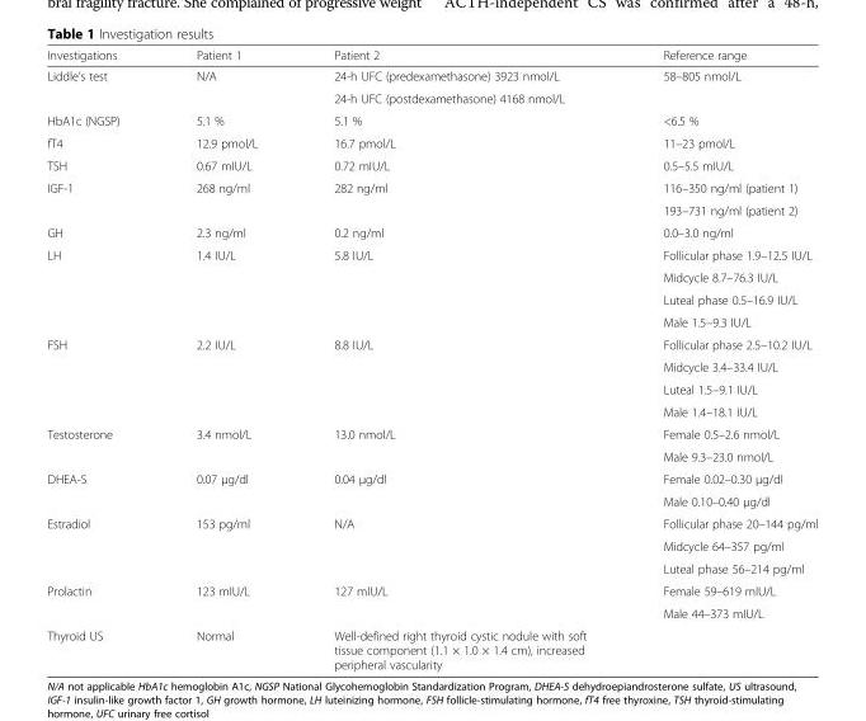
<table><thead><tr><td>Investigations</td><td>Patient 1</td><td>Patient 2</td><td>Reference range</td></tr></thead><tbody><tr><td rowspan="2">Liddle’s test</td><td rowspan="2">N/A</td><td>24-h UFC (predexamethasone) 3923 nmol/L</td><td rowspan="2">58–805 nmol/L</td></tr><tr><td>24-h UFC (postdexamethasone) 4168 nmol/L</td></tr><tr><td>HbA1c (NGSP)</td><td>5.1 %</td><td>5.1 %</td><td>&lt;6.5 %</td></tr><tr><td>fT4</td><td>12.9 pmol/L</td><td>16.7 pmol/L</td><td>11–23 pmol/L</td></tr><tr><td>TSH</td><td>0.67 mIU/L</td><td>0.72 mIU/L</td><td>0.5–5.5 mIU/L</td></tr><tr><td rowspan="2">IGF-1</td><td rowspan="2">268 ng/ml</td><td rowspan="2">282 ng/ml</td><td>116–350 ng/ml (patient 1)</td></tr><tr><td>193–731 ng/ml (patient 2)</td></tr><tr><td>GH</td><td>2.3 ng/ml</td><td>0.2 ng/ml</td><td>0.0–3.0 ng/ml</td></tr><tr><td rowspan="4">LH</td><td rowspan="4">1.4 IU/L</td><td rowspan="4">5.8 IU/L</td><td>Follicular phase 1.9–12.5 IU/L</td></tr><tr><td>Midcycle 8.7–76.3 IU/L</td></tr><tr><td>Luteal phase 0.5–16.9 IU/L</td></tr><tr><td>Male 1.5–9.3 IU/L</td></tr><tr><td rowspan="4">FSH</td><td rowspan="4">2.2 IU/L</td><td rowspan="4">8.8 IU/L</td><td>Follicular phase 2.5–10.2 IU/L</td></tr><tr><td>Midcycle 3.4–33.4 IU/L</td></tr><tr><td>Luteal 1.5–9.1 IU/L</td></tr><tr><td>Male 1.4–18.1 IU/L</td></tr><tr><td rowspan="2">Testosterone</td><td rowspan="2">3.4 nmol/L</td><td rowspan="2">13.0 nmol/L</td><td>Female 0.5–2.6 nmol/L</td></tr><tr><td>Male 9.3–23.0 nmol/L</td></tr><tr><td rowspan="2">DHEA-S</td><td rowspan="2">0.07 μg/dl</td><td rowspan="2">0.04 μg/dl</td><td>Female 0.02–0.30 μg/dl</td></tr><tr><td>Male 0.10–0.40 μg/dl</td></tr><tr><td rowspan="3">Estradiol</td><td rowspan="3">153 pg/ml</td><td rowspan="3">N/A</td><td>Follicular phase 20–144 pg/ml</td></tr><tr><td>Midcycle 64–357 pg/ml</td></tr><tr><td>Luteal phase 56–214 pg/ml</td></tr><tr><td rowspan="2">Prolactin</td><td rowspan="2">123 mIU/L</td><td rowspan="2">127 mIU/L</td><td>Female 59–619 mIU/L</td></tr><tr><td>Male 44–373 mIU/L</td></tr><tr><td>Thyroid US</td><td>Normal</td><td>Well-defined right thyroid cystic nodule with soft tissue component (1.1 × 1.0 × 1.4 cm), increased peripheral vascularity</td><td></td></tr></tbody></table>